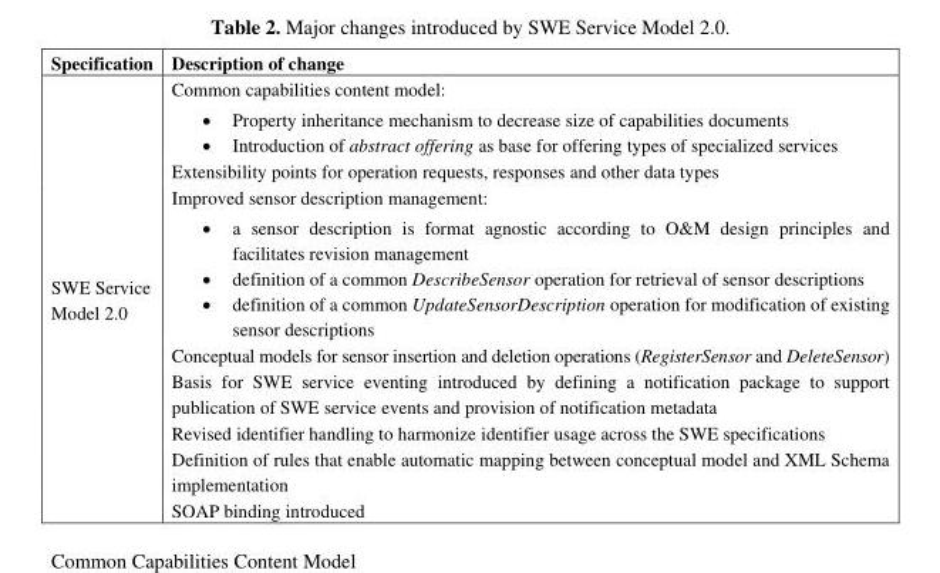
<table><thead><tr><td>Specification</td><td>Description of change</td></tr></thead><tbody><tr><td>SWE Service Model 2.0</td><td>Common capabilities content model:  Property inheritance mechanism to decrease size of capabilities documents  Introduction of abstract offering as base for offering types of specialized services Extensibility points for operation requests, responses and other data types Improved sensor description management:  a sensor description is format agnostic according to O&amp;M design principles and facilitates revision management  definition of a common DescribeSensor operation for retrieval of sensor descriptions  definition of a common UpdateSensorDescription operation for modification of existing sensor descriptions Conceptual models for sensor insertion and deletion operations (RegisterSensor and DeleteSensor) Basis for SWE service eventing introduced by defining a notification package to support publication of SWE service events and provision of notification metadata Revised identifier handling to harmonize identifier usage across the SWE specifications Definition of rules that enable automatic mapping between conceptual model and XML Schema implementation SOAP binding introduced</td></tr></tbody></table>